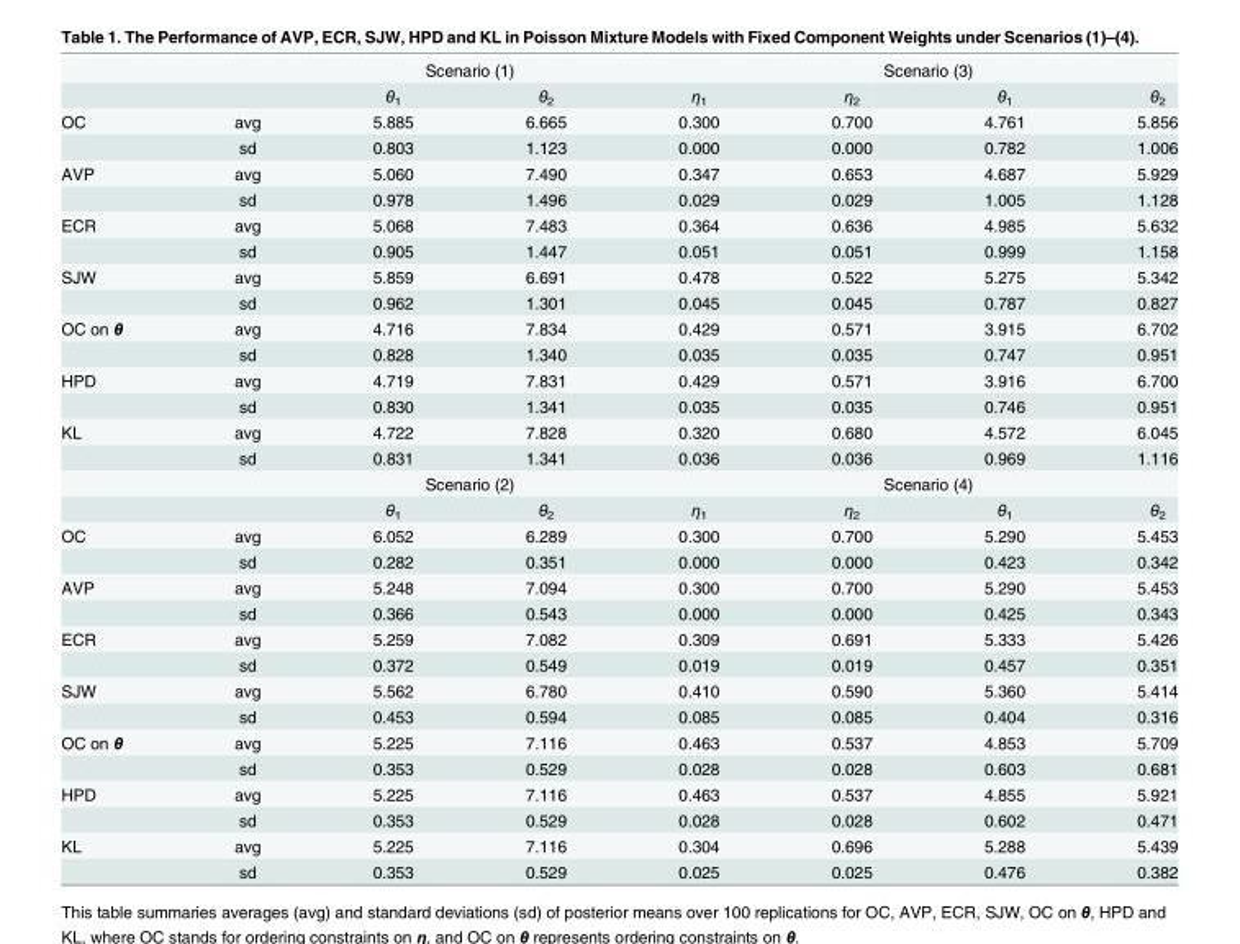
<table><thead><tr><td rowspan="2"></td><td rowspan="2"></td><td colspan="2">Scenario (1)</td><td colspan="4">Scenario (3)</td></tr><tr><td>θ<sub>1</sub></td><td>θ<sub>2</sub></td><td>η<sub>1</sub></td><td>η<sub>2</sub></td><td>θ<sub>1</sub></td><td>θ<sub>2</sub></td></tr></thead><tbody><tr><td rowspan="2">OC</td><td>avg</td><td>5.885</td><td>6.665</td><td>0.300</td><td>0.700</td><td>4.761</td><td>5.856</td></tr><tr><td>sd</td><td>0.803</td><td>1.123</td><td>0.000</td><td>0.000</td><td>0.782</td><td>1.006</td></tr><tr><td rowspan="2">AVP</td><td>avg</td><td>5.060</td><td>7.490</td><td>0.347</td><td>0.653</td><td>4.687</td><td>5.929</td></tr><tr><td>sd</td><td>0.978</td><td>1.496</td><td>0.029</td><td>0.029</td><td>1.005</td><td>1.128</td></tr><tr><td rowspan="2">ECR</td><td>avg</td><td>5.068</td><td>7.483</td><td>0.364</td><td>0.636</td><td>4.985</td><td>5.632</td></tr><tr><td>sd</td><td>0.905</td><td>1.447</td><td>0.051</td><td>0.051</td><td>0.999</td><td>1.158</td></tr><tr><td rowspan="2">SJW</td><td>avg</td><td>5.859</td><td>6.691</td><td>0.478</td><td>0.522</td><td>5.275</td><td>5.342</td></tr><tr><td>sd</td><td>0.962</td><td>1.301</td><td>0.045</td><td>0.045</td><td>0.787</td><td>0.827</td></tr><tr><td rowspan="2">OC on θ</td><td>avg</td><td>4.716</td><td>7.834</td><td>0.429</td><td>0.571</td><td>3.915</td><td>6.702</td></tr><tr><td>sd</td><td>0.828</td><td>1.340</td><td>0.035</td><td>0.035</td><td>0.747</td><td>0.951</td></tr><tr><td rowspan="2">HPD</td><td>avg</td><td>4.719</td><td>7.831</td><td>0.429</td><td>0.571</td><td>3.916</td><td>6.700</td></tr><tr><td>sd</td><td>0.830</td><td>1.341</td><td>0.035</td><td>0.035</td><td>0.746</td><td>0.951</td></tr><tr><td rowspan="4">KL</td><td>avg</td><td>4.722</td><td>7.828</td><td>0.320</td><td>0.680</td><td>4.572</td><td>6.045</td></tr><tr><td>sd</td><td>0.831</td><td>1.341</td><td>0.036</td><td>0.036</td><td>0.969</td><td>1.116</td></tr><tr><td></td><td colspan="2">Scenario (2)</td><td colspan="4">Scenario (4)</td></tr><tr><td></td><td>θ<sub>1</sub></td><td>θ<sub>2</sub></td><td>η<sub>1</sub></td><td>η<sub>2</sub></td><td>θ<sub>1</sub></td><td>θ<sub>2</sub></td></tr><tr><td rowspan="2">OC</td><td>avg</td><td>6.052</td><td>6.289</td><td>0.300</td><td>0.700</td><td>5.290</td><td>5.453</td></tr><tr><td>sd</td><td>0.282</td><td>0.351</td><td>0.000</td><td>0.000</td><td>0.423</td><td>0.342</td></tr><tr><td rowspan="2">AVP</td><td>avg</td><td>5.248</td><td>7.094</td><td>0.300</td><td>0.700</td><td>5.290</td><td>5.453</td></tr><tr><td>sd</td><td>0.366</td><td>0.543</td><td>0.000</td><td>0.000</td><td>0.425</td><td>0.343</td></tr><tr><td rowspan="2">ECR</td><td>avg</td><td>5.259</td><td>7.082</td><td>0.309</td><td>0.691</td><td>5.333</td><td>5.426</td></tr><tr><td>sd</td><td>0.372</td><td>0.549</td><td>0.019</td><td>0.019</td><td>0.457</td><td>0.351</td></tr><tr><td rowspan="2">SJW</td><td>avg</td><td>5.562</td><td>6.780</td><td>0.410</td><td>0.590</td><td>5.360</td><td>5.414</td></tr><tr><td>sd</td><td>0.453</td><td>0.594</td><td>0.085</td><td>0.085</td><td>0.404</td><td>0.316</td></tr><tr><td rowspan="2">OC on θ</td><td>avg</td><td>5.225</td><td>7.116</td><td>0.463</td><td>0.537</td><td>4.853</td><td>5.709</td></tr><tr><td>sd</td><td>0.353</td><td>0.529</td><td>0.028</td><td>0.028</td><td>0.603</td><td>0.681</td></tr><tr><td rowspan="2">HPD</td><td>avg</td><td>5.225</td><td>7.116</td><td>0.463</td><td>0.537</td><td>4.855</td><td>5.921</td></tr><tr><td>sd</td><td>0.353</td><td>0.529</td><td>0.028</td><td>0.028</td><td>0.602</td><td>0.471</td></tr><tr><td rowspan="2">KL</td><td>avg</td><td>5.225</td><td>7.116</td><td>0.304</td><td>0.696</td><td>5.288</td><td>5.439</td></tr><tr><td>sd</td><td>0.353</td><td>0.529</td><td>0.025</td><td>0.025</td><td>0.476</td><td>0.382</td></tr></tbody></table>